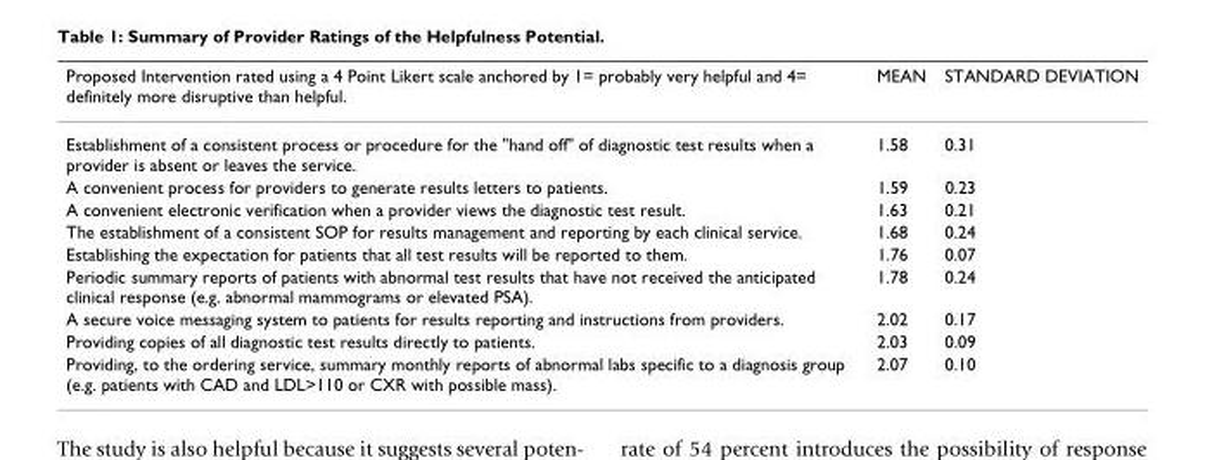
<table><thead><tr><td>Proposed Intervention rated using a 4 Point Likert scale anchored by 1= probably very helpful and 4= definitely more disruptive than helpful.</td><td>MEAN</td><td>STANDARD DEVIATION</td></tr></thead><tbody><tr><td>Establishment of a consistent process or procedure for the &quot;hand off&quot; of diagnostic test results when a provider is absent or leaves the service.</td><td>1.58</td><td>0.31</td></tr><tr><td>A convenient process for providers to generate results letters to patients.</td><td>1.59</td><td>0.23</td></tr><tr><td>A convenient electronic verification when a provider views the diagnostic test result.</td><td>1.63</td><td>0.21</td></tr><tr><td>The establishment of a consistent SOP for results management and reporting by each clinical service.</td><td>1.68</td><td>0.24</td></tr><tr><td>Establishing the expectation for patients that all test results will be reported to them.</td><td>1.76</td><td>0.07</td></tr><tr><td>Periodic summary reports of patients with abnormal test results that have not received the anticipated clinical response (e.g. abnormal mammograms or elevated PSA).</td><td>1.78</td><td>0.24</td></tr><tr><td>A secure voice messaging system to patients for results reporting and instructions from providers.</td><td>2.02</td><td>0.17</td></tr><tr><td>Providing copies of all diagnostic test results directly to patients.</td><td>2.03</td><td>0.09</td></tr><tr><td>Providing, to the ordering service, summary monthly reports of abnormal labs specific to a diagnosis group (e.g. patients with CAD and LDL&gt;110 or CXR with possible mass).</td><td>2.07</td><td>0.10</td></tr></tbody></table>